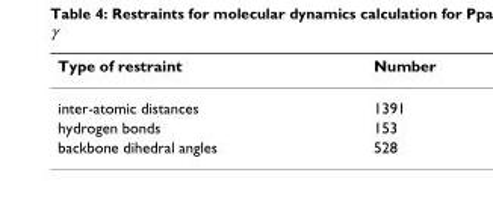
<table><thead><tr><td>Type of restraint</td><td>Number</td></tr></thead><tbody><tr><td>inter-atomic distances</td><td>1391</td></tr><tr><td>hydrogen bonds</td><td>153</td></tr><tr><td>backbone dihedral angles</td><td>528</td></tr></tbody></table>